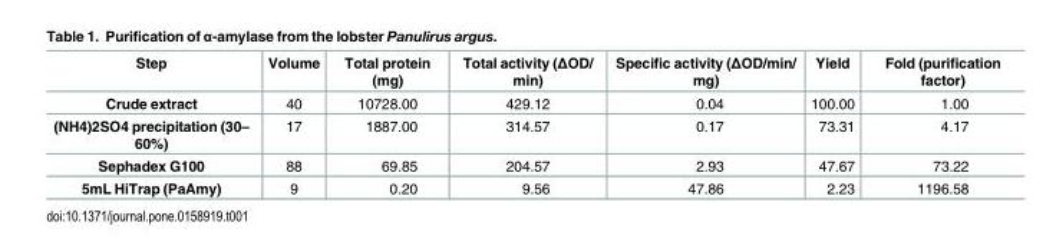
<table><thead><tr><td>Step</td><td>Volume</td><td>Total protein (mg)</td><td>Total activity (ΔOD/ min)</td><td>Specific activity (ΔOD/min/ mg)</td><td>Yield</td><td>Fold (purification factor)</td></tr></thead><tbody><tr><td>Crude extract</td><td>40</td><td>10728.00</td><td>429.12</td><td>0.04</td><td>100.00</td><td>1.00</td></tr><tr><td>(NH4)2SO4 precipitation (30– 60%)</td><td>17</td><td>1887.00</td><td>314.57</td><td>0.17</td><td>73.31</td><td>4.17</td></tr><tr><td>Sephadex G100</td><td>88</td><td>69.85</td><td>204.57</td><td>2.93</td><td>47.67</td><td>73.22</td></tr><tr><td>5mL HiTrap (PaAmy)</td><td>9</td><td>0.20</td><td>9.56</td><td>47.86</td><td>2.23</td><td>1196.58</td></tr></tbody></table>